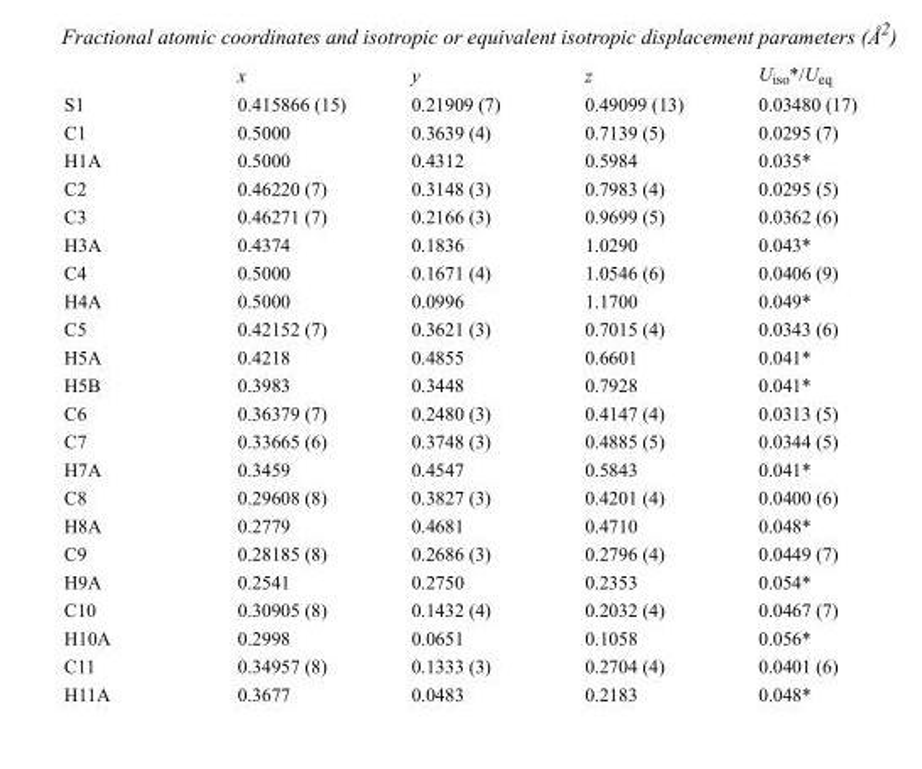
<table><thead><tr><td></td><td>x</td><td>y</td><td>z</td><td>U<sub>iso</sub>*/U<sub>eq</sub></td></tr></thead><tbody><tr><td>S1</td><td>0.415866 (15)</td><td>0.21909 (7)</td><td>0.49099 (13)</td><td>0.03480 (17)</td></tr><tr><td>C1</td><td>0.5000</td><td>0.3639 (4)</td><td>0.7139 (5)</td><td>0.0295 (7)</td></tr><tr><td>H1A</td><td>0.5000</td><td>0.4312</td><td>0.5984</td><td>0.035*</td></tr><tr><td>C2</td><td>0.46220 (7)</td><td>0.3148 (3)</td><td>0.7983 (4)</td><td>0.0295 (5)</td></tr><tr><td>C3</td><td>0.46271 (7)</td><td>0.2166 (3)</td><td>0.9699 (5)</td><td>0.0362 (6)</td></tr><tr><td>H3A</td><td>0.4374</td><td>0.1836</td><td>1.0290</td><td>0.043*</td></tr><tr><td>C4</td><td>0.5000</td><td>0.1671 (4)</td><td>1.0546 (6)</td><td>0.0406 (9)</td></tr><tr><td>H4A</td><td>0.5000</td><td>0.0996</td><td>1.1700</td><td>0.049*</td></tr><tr><td>C5</td><td>0.42152 (7)</td><td>0.3621 (3)</td><td>0.7015 (4)</td><td>0.0343 (6)</td></tr><tr><td>H5A</td><td>0.4218</td><td>0.4855</td><td>0.6601</td><td>0.041*</td></tr><tr><td>H5B</td><td>0.3983</td><td>0.3448</td><td>0.7928</td><td>0.041*</td></tr><tr><td>C6</td><td>0.36379 (7)</td><td>0.2480 (3)</td><td>0.4147 (4)</td><td>0.0313 (5)</td></tr><tr><td>C7</td><td>0.33665 (6)</td><td>0.3748 (3)</td><td>0.4885 (5)</td><td>0.0344 (5)</td></tr><tr><td>H7A</td><td>0.3459</td><td>0.4547</td><td>0.5843</td><td>0.041*</td></tr><tr><td>C8</td><td>0.29608 (8)</td><td>0.3827 (3)</td><td>0.4201 (4)</td><td>0.0400 (6)</td></tr><tr><td>H8A</td><td>0.2779</td><td>0.4681</td><td>0.4710</td><td>0.048*</td></tr><tr><td>C9</td><td>0.28185 (8)</td><td>0.2686 (3)</td><td>0.2796 (4)</td><td>0.0449 (7)</td></tr><tr><td>H9A</td><td>0.2541</td><td>0.2750</td><td>0.2353</td><td>0.054*</td></tr><tr><td>C10</td><td>0.30905 (8)</td><td>0.1432 (4)</td><td>0.2032 (4)</td><td>0.0467 (7)</td></tr><tr><td>H10A</td><td>0.2998</td><td>0.0651</td><td>0.1058</td><td>0.056*</td></tr><tr><td>C11</td><td>0.34957 (8)</td><td>0.1333 (3)</td><td>0.2704 (4)</td><td>0.0401 (6)</td></tr><tr><td>H11A</td><td>0.3677</td><td>0.0483</td><td>0.2183</td><td>0.048*</td></tr></tbody></table>